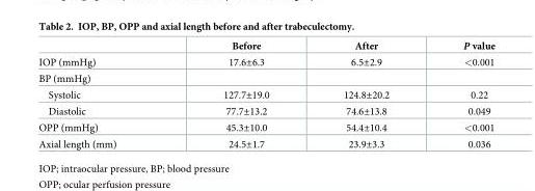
<table><thead><tr><td></td><td>Before</td><td>After</td><td>P value</td></tr></thead><tbody><tr><td>IOP (mmHg)</td><td>17.6±6.3</td><td>6.5±2.9</td><td>&lt;0.001</td></tr><tr><td colspan="4">BP (mmHg)</td></tr><tr><td>Systolic</td><td>127.7±19.0</td><td>124.8±20.2</td><td>0.22</td></tr><tr><td>Diastolic</td><td>77.7±13.2</td><td>74.6±13.8</td><td>0.049</td></tr><tr><td>OPP (mmHg)</td><td>45.3±10.0</td><td>54.4±10.4</td><td>&lt;0.001</td></tr><tr><td>Axial length (mm)</td><td>24.5±1.7</td><td>23.9±3.3</td><td>0.036</td></tr></tbody></table>